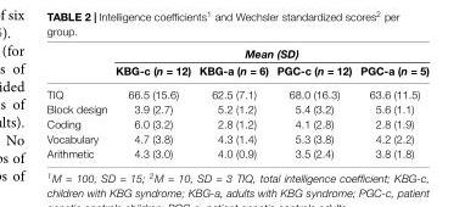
<table><thead><tr><td rowspan="2"></td><td colspan="4">Mean (SD)</td></tr><tr><td>KBG-c (n = 12)</td><td>KBG-a (n = 6)</td><td>PGC-c (n = 12)</td><td>PGC-a (n = 5)</td></tr></thead><tbody><tr><td>TIQ</td><td>66.5 (15.6)</td><td>62.5 (7.1)</td><td>68.0 (16.3)</td><td>63.6 (11.5)</td></tr><tr><td>Block design</td><td>3.9 (2.7)</td><td>5.2 (1.2)</td><td>5.4 (3.2)</td><td>5.6 (1.1)</td></tr><tr><td>Coding</td><td>6.0 (3.2)</td><td>2.8 (1.2)</td><td>4.1 (2.8)</td><td>2.8 (1.9)</td></tr><tr><td>Vocabulary</td><td>4.7 (3.8)</td><td>4.3 (1.4)</td><td>5.3 (3.8)</td><td>4.2 (2.2)</td></tr><tr><td>Arithmetic</td><td>4.3 (3.0)</td><td>4.0 (0.9)</td><td>3.5 (2.4)</td><td>3.8 (1.8)</td></tr></tbody></table>